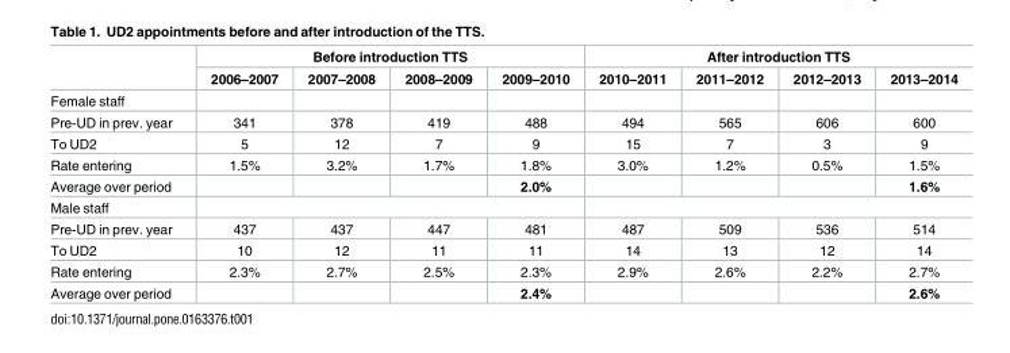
<table><thead><tr><td rowspan="2"></td><td colspan="4">Before introduction TTS</td><td colspan="4">After introduction TTS</td></tr><tr><td>2006–2007</td><td>2007–2008</td><td>2008–2009</td><td>2009–2010</td><td>2010–2011</td><td>2011–2012</td><td>2012–2013</td><td>2013–2014</td></tr></thead><tbody><tr><td colspan="9">Female staff</td></tr><tr><td>Pre-UD in prev. year</td><td>341</td><td>378</td><td>419</td><td>488</td><td>494</td><td>565</td><td>606</td><td>600</td></tr><tr><td>To UD2</td><td>5</td><td>12</td><td>7</td><td>9</td><td>15</td><td>7</td><td>3</td><td>9</td></tr><tr><td>Rate entering</td><td>1.5%</td><td>3.2%</td><td>1.7%</td><td>1.8%</td><td>3.0%</td><td>1.2%</td><td>0.5%</td><td>1.5%</td></tr><tr><td>Average over period</td><td></td><td></td><td></td><td>2.0%</td><td></td><td></td><td></td><td>1.6%</td></tr><tr><td colspan="9">Male staff</td></tr><tr><td>Pre-UD in prev. year</td><td>437</td><td>437</td><td>447</td><td>481</td><td>487</td><td>509</td><td>536</td><td>514</td></tr><tr><td>To UD2</td><td>10</td><td>12</td><td>11</td><td>11</td><td>14</td><td>13</td><td>12</td><td>14</td></tr><tr><td>Rate entering</td><td>2.3%</td><td>2.7%</td><td>2.5%</td><td>2.3%</td><td>2.9%</td><td>2.6%</td><td>2.2%</td><td>2.7%</td></tr><tr><td>Average over period</td><td></td><td></td><td></td><td>2.4%</td><td></td><td></td><td></td><td>2.6%</td></tr></tbody></table>